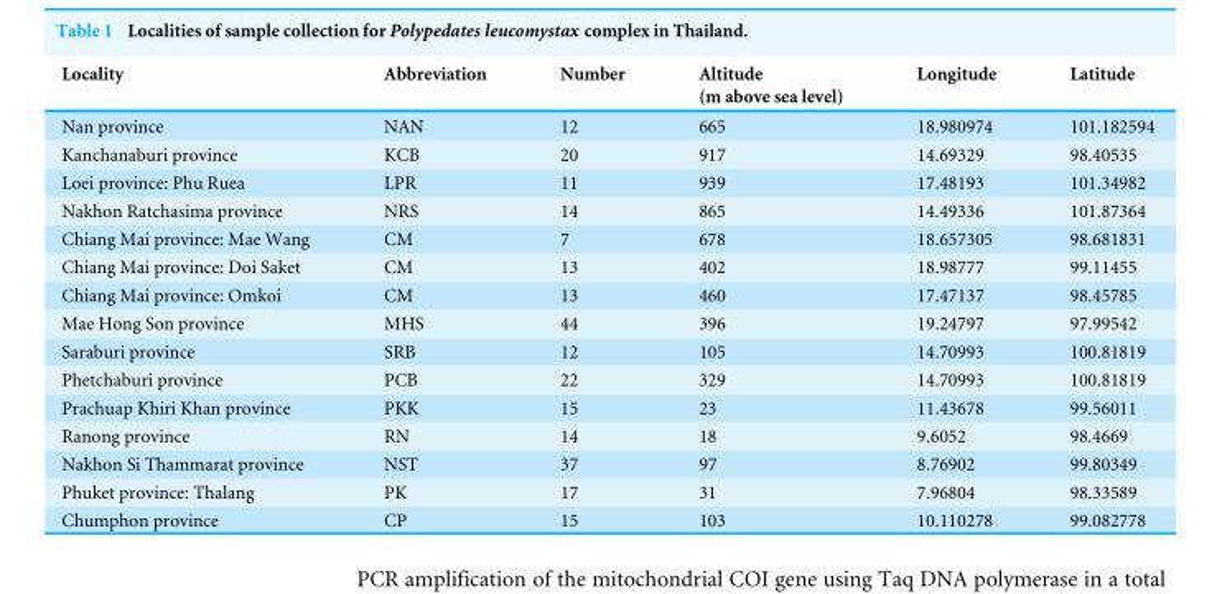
<table><thead><tr><td>Locality</td><td>Abbreviation</td><td>Number</td><td>Altitude (m above sea level)</td><td>Longitude</td><td>Latitude</td></tr></thead><tbody><tr><td>Nan province</td><td>NAN</td><td>12</td><td>665</td><td>18.980974</td><td>101.182594</td></tr><tr><td>Kanchanaburi province</td><td>KCB</td><td>20</td><td>917</td><td>14.69329</td><td>98.40535</td></tr><tr><td>Loei province: Phu Ruea</td><td>LPR</td><td>11</td><td>939</td><td>17.48193</td><td>101.34982</td></tr><tr><td>Nakhon Ratchasima province</td><td>NRS</td><td>14</td><td>865</td><td>14.49336</td><td>101.87364</td></tr><tr><td>Chiang Mai province: Mae Wang</td><td>CM</td><td>7</td><td>678</td><td>18.657305</td><td>98.681831</td></tr><tr><td>Chiang Mai province: Doi Saket</td><td>CM</td><td>13</td><td>402</td><td>18.98777</td><td>99.11455</td></tr><tr><td>Chiang Mai province: Omkoi</td><td>CM</td><td>13</td><td>460</td><td>17.47137</td><td>98.45785</td></tr><tr><td>Mae Hong Son province</td><td>MHS</td><td>44</td><td>396</td><td>19.24797</td><td>97.99542</td></tr><tr><td>Saraburi province</td><td>SRB</td><td>12</td><td>105</td><td>14.70993</td><td>100.81819</td></tr><tr><td>Phetchaburi province</td><td>PCB</td><td>22</td><td>329</td><td>14.70993</td><td>100.81819</td></tr><tr><td>Prachuap Khiri Khan province</td><td>PKK</td><td>15</td><td>23</td><td>11.43678</td><td>99.56011</td></tr><tr><td>Ranong province</td><td>RN</td><td>14</td><td>18</td><td>9.6052</td><td>98.4669</td></tr><tr><td>Nakhon Si Thammarat province</td><td>NST</td><td>37</td><td>97</td><td>8.76902</td><td>99.80349</td></tr><tr><td>Phuket province: Thalang</td><td>PK</td><td>17</td><td>31</td><td>7.96804</td><td>98.33589</td></tr><tr><td>Chumphon province</td><td>CP</td><td>15</td><td>103</td><td>10.110278</td><td>99.082778</td></tr></tbody></table>